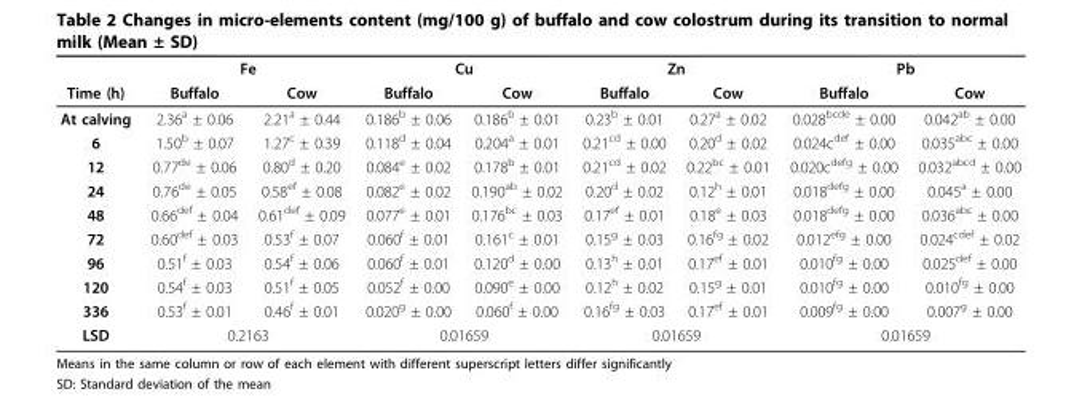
<table><thead><tr><td rowspan="2">Time (h)</td><td colspan="2">Fe</td><td colspan="2">Cu</td><td colspan="2">Zn</td><td colspan="2">Pb</td></tr><tr><td>Buffalo</td><td>Cow</td><td>Buffalo</td><td>Cow</td><td>Buffalo</td><td>Cow</td><td>Buffalo</td><td>Cow</td></tr></thead><tbody><tr><td>At calving</td><td>2.36<sup>a</sup> ± 0.06</td><td>2.21<sup>a</sup> ± 0.44</td><td>0.186<sup>b</sup> ± 0.06</td><td>0.186<sup>b</sup> ± 0.01</td><td>0.23<sup>b</sup> ± 0.01</td><td>0.27<sup>a</sup> ± 0.02</td><td>0.028<sup>bcde</sup> ± 0.00</td><td>0.042<sup>ab</sup> ± 0.00</td></tr><tr><td>6</td><td>1.50<sup>b</sup> ± 0.07</td><td>1.27<sup>c</sup> ± 0.39</td><td>0.118<sup>d</sup> ± 0.04</td><td>0.204<sup>a</sup> ± 0.01</td><td>0.21<sup>cd</sup> ± 0.00</td><td>0.20<sup>d</sup> ± 0.02</td><td>0.024c<sup>def</sup> ± 0.00</td><td>0.035<sup>abc</sup> ± 0.00</td></tr><tr><td>12</td><td>0.77<sup>de</sup> ± 0.06</td><td>0.80<sup>d</sup> ± 0.20</td><td>0.084<sup>e</sup> ± 0.02</td><td>0.178<sup>b</sup> ± 0.01</td><td>0.21<sup>cd</sup> ± 0.02</td><td>0.22<sup>bc</sup> ± 0.01</td><td>0.020c<sup>defg</sup> ± 0.00</td><td>0.032<sup>abcd</sup> ± 0.00</td></tr><tr><td>24</td><td>0.76<sup>de</sup> ± 0.05</td><td>0.58<sup>ef</sup> ± 0.08</td><td>0.082<sup>e</sup> ± 0.02</td><td>0.190<sup>ab</sup> ± 0.02</td><td>0.20<sup>d</sup> ± 0.02</td><td>0.12<sup>h</sup> ± 0.01</td><td>0.018<sup>defg</sup> ± 0.00</td><td>0.045<sup>a</sup> ± 0.00</td></tr><tr><td>48</td><td>0.66<sup>def</sup> ± 0.04</td><td>0.61<sup>def</sup> ± 0.09</td><td>0.077<sup>e</sup> ± 0.01</td><td>0.176<sup>bc</sup> ± 0.03</td><td>0.17<sup>ef</sup> ± 0.01</td><td>0.18<sup>e</sup> ± 0.03</td><td>0.018<sup>defg</sup> ± 0.00</td><td>0.036<sup>abc</sup> ± 0.00</td></tr><tr><td>72</td><td>0.60<sup>def</sup> ± 0.03</td><td>0.53<sup>f</sup> ± 0.07</td><td>0.060<sup>f</sup> ± 0.01</td><td>0.161<sup>c</sup> ± 0.01</td><td>0.15<sup>g</sup> ± 0.03</td><td>0.16<sup>fg</sup> ± 0.02</td><td>0.012<sup>efg</sup> ± 0.00</td><td>0.024<sup>cdef</sup> ± 0.02</td></tr><tr><td>96</td><td>0.51<sup>f</sup> ± 0.03</td><td>0.54<sup>f</sup> ± 0.06</td><td>0.060<sup>f</sup> ± 0.01</td><td>0.120<sup>d</sup> ± 0.00</td><td>0.13<sup>h</sup> ± 0.01</td><td>0.17<sup>ef</sup> ± 0.01</td><td>0.010<sup>fg</sup> ± 0.00</td><td>0.025<sup>def</sup> ± 0.00</td></tr><tr><td>120</td><td>0.54<sup>f</sup> ± 0.03</td><td>0.51<sup>f</sup> ± 0.05</td><td>0.052<sup>f</sup> ± 0.00</td><td>0.090<sup>e</sup> ± 0.00</td><td>0.12<sup>h</sup> ± 0.02</td><td>0.15<sup>g</sup> ± 0.01</td><td>0.010<sup>fg</sup> ± 0.00</td><td>0.010<sup>fg</sup> ± 0.00</td></tr><tr><td>336</td><td>0.53<sup>f</sup> ± 0.01</td><td>0.46<sup>f</sup> ± 0.01</td><td>0.020<sup>g</sup> ± 0.00</td><td>0.060<sup>f</sup> ± 0.00</td><td>0.16<sup>fg</sup> ± 0.03</td><td>0.17<sup>ef</sup> ± 0.01</td><td>0.009<sup>fg</sup> ± 0.00</td><td>0.007<sup>g</sup> ± 0.00</td></tr><tr><td>LSD</td><td colspan="2">0.2163</td><td colspan="2">0.01659</td><td colspan="2">0.01659</td><td colspan="2">0.01659</td></tr></tbody></table>